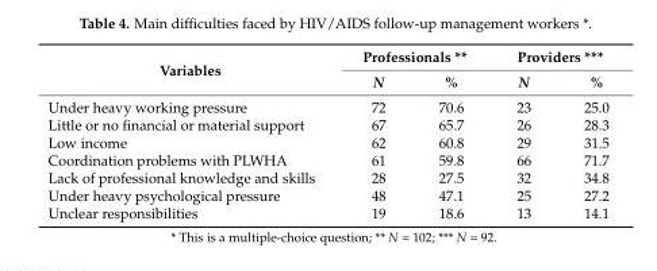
<table><thead><tr><td rowspan="2">Variables</td><td colspan="2">Professionals **</td><td colspan="2">Providers ***</td></tr><tr><td>N</td><td>%</td><td>N</td><td>%</td></tr></thead><tbody><tr><td>Under heavy working pressure</td><td>72</td><td>70.6</td><td>23</td><td>25.0</td></tr><tr><td>Little or no financial or material support</td><td>67</td><td>65.7</td><td>26</td><td>28.3</td></tr><tr><td>Low income</td><td>62</td><td>60.8</td><td>29</td><td>31.5</td></tr><tr><td>Coordination problems with PLWHA</td><td>61</td><td>59.8</td><td>66</td><td>71.7</td></tr><tr><td>Lack of professional knowledge and skills</td><td>28</td><td>27.5</td><td>32</td><td>34.8</td></tr><tr><td>Under heavy psychological pressure</td><td>48</td><td>47.1</td><td>25</td><td>27.2</td></tr><tr><td>Unclear responsibilities</td><td>19</td><td>18.6</td><td>13</td><td>14.1</td></tr></tbody></table>